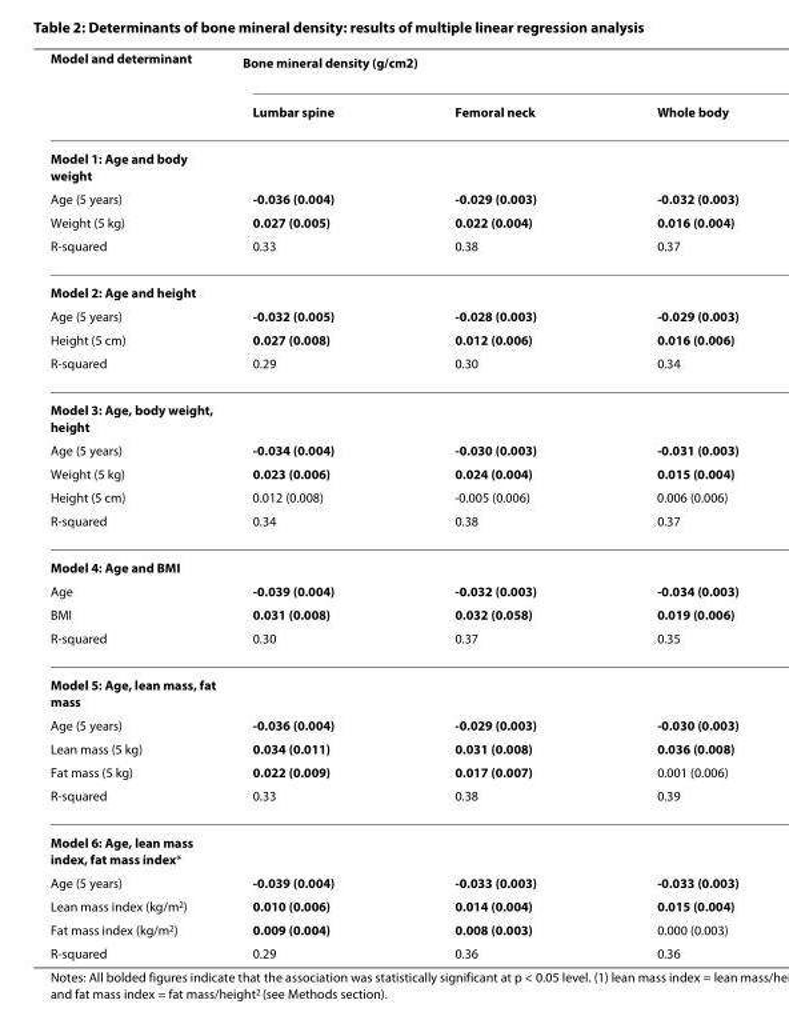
<table><thead><tr><td rowspan="2">Model and determinant</td><td colspan="3">Bone mineral density (g/cm<sup>2</sup>)</td></tr><tr><td>Lumbar spine</td><td>Femoral neck</td><td>Whole body</td></tr></thead><tbody><tr><td colspan="4">Model 1: Age and body weight</td></tr><tr><td>Age (5 years)</td><td>-0.036 (0.004)</td><td>-0.029 (0.003)</td><td>-0.032 (0.003)</td></tr><tr><td>Weight (5 kg)</td><td>0.027 (0.005)</td><td>0.022 (0.004)</td><td>0.016 (0.004)</td></tr><tr><td>R-squared</td><td>0.33</td><td>0.38</td><td>0.37</td></tr><tr><td colspan="4">Model 2: Age and height</td></tr><tr><td>Age (5 years)</td><td>-0.032 (0.005)</td><td>-0.028 (0.003)</td><td>-0.029 (0.003)</td></tr><tr><td>Height (5 cm)</td><td>0.027 (0.008)</td><td>0.012 (0.006)</td><td>0.016 (0.006)</td></tr><tr><td>R-squared</td><td>0.29</td><td>0.30</td><td>0.34</td></tr><tr><td colspan="4">Model 3: Age, body weight, height</td></tr><tr><td>Age (5 years)</td><td>-0.034 (0.004)</td><td>-0.030 (0.003)</td><td>-0.031 (0.003)</td></tr><tr><td>Weight (5 kg)</td><td>0.023 (0.006)</td><td>0.024 (0.004)</td><td>0.015 (0.004)</td></tr><tr><td>Height (5 cm)</td><td>0.012 (0.008)</td><td>-0.005 (0.006)</td><td>0.006 (0.006)</td></tr><tr><td>R-squared</td><td>0.34</td><td>0.38</td><td>0.37</td></tr><tr><td colspan="4">Model 4: Age and BMI</td></tr><tr><td>Age</td><td>-0.039 (0.004)</td><td>-0.032 (0.003)</td><td>-0.034 (0.003)</td></tr><tr><td>BMI</td><td>0.031 (0.008)</td><td>0.032 (0.058)</td><td>0.019 (0.006)</td></tr><tr><td>R-squared</td><td>0.30</td><td>0.37</td><td>0.35</td></tr><tr><td colspan="4">Model 5: Age, lean mass, fat mass</td></tr><tr><td>Age (5 years)</td><td>-0.036 (0.004)</td><td>-0.029 (0.003)</td><td>-0.030 (0.003)</td></tr><tr><td>Lean mass (5 kg)</td><td>0.034 (0.011)</td><td>0.031 (0.008)</td><td>0.036 (0.008)</td></tr><tr><td>Fat mass (5 kg)</td><td>0.022 (0.009)</td><td>0.017 (0.007)</td><td>0.001 (0.006)</td></tr><tr><td>R-squared</td><td>0.33</td><td>0.38</td><td>0.39</td></tr><tr><td colspan="4">Model 6: Age, lean mass index, fat mass index*</td></tr><tr><td>Age (5 years)</td><td>-0.039 (0.004)</td><td>-0.033 (0.003)</td><td>-0.033 (0.003)</td></tr><tr><td>Lean mass index (kg/m<sup>2</sup>)</td><td>0.010 (0.006)</td><td>0.014 (0.004)</td><td>0.015 (0.004)</td></tr><tr><td>Fat mass index (kg/m<sup>2</sup>)</td><td>0.009 (0.004)</td><td>0.008 (0.003)</td><td>0.000 (0.003)</td></tr><tr><td>R-squared</td><td>0.29</td><td>0.36</td><td>0.36</td></tr></tbody></table>